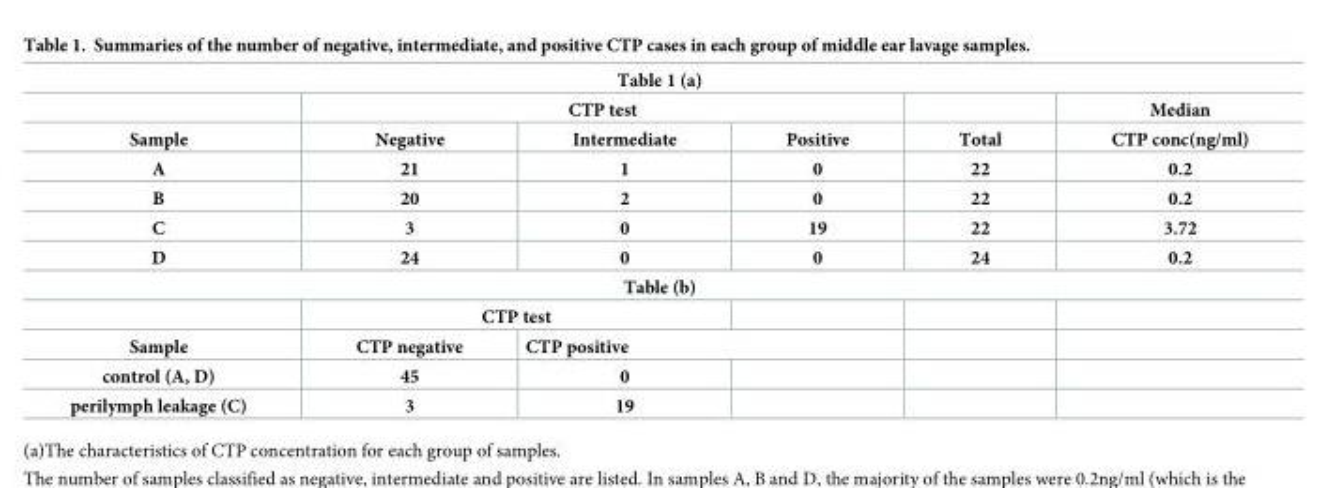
<table><tbody><tr><td colspan="6">Table 1 (a)</td></tr><tr><td></td><td colspan="3">CTP test</td><td></td><td>Median</td></tr><tr><td>Sample</td><td>Negative</td><td>Intermediate</td><td>Positive</td><td>Total</td><td>CTP conc(ng/ml)</td></tr><tr><td>A</td><td>21</td><td>1</td><td>0</td><td>22</td><td>0.2</td></tr><tr><td>B</td><td>20</td><td>2</td><td>0</td><td>22</td><td>0.2</td></tr><tr><td>C</td><td>3</td><td>0</td><td>19</td><td>22</td><td>3.72</td></tr><tr><td>D</td><td>24</td><td>0</td><td>0</td><td>24</td><td>0.2</td></tr><tr><td colspan="6">Table (b)</td></tr><tr><td></td><td colspan="2">CTP test</td><td></td><td></td><td></td></tr><tr><td>Sample</td><td>CTP negative</td><td colspan="2">CTP positive</td><td></td><td></td></tr><tr><td>control (A, D)</td><td>45</td><td>0</td><td></td><td></td><td></td></tr><tr><td>perilymph leakage (C)</td><td>3</td><td>19</td><td></td><td></td><td></td></tr></tbody></table>